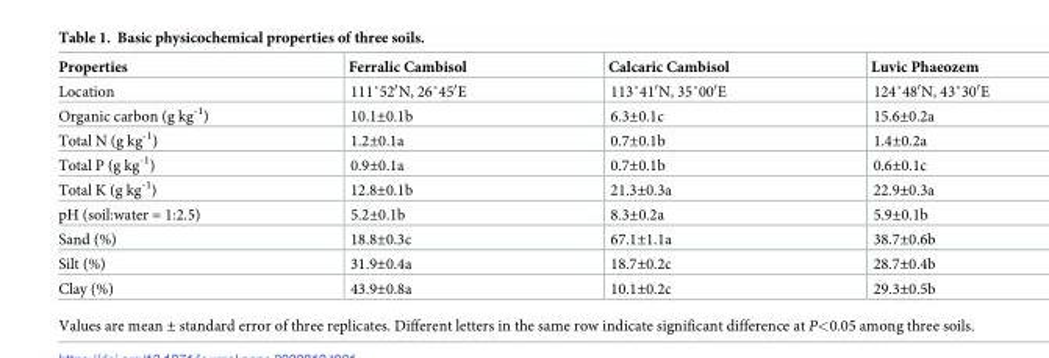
<table><thead><tr><td>Properties</td><td>Ferralic Cambisol</td><td>Calcaric Cambisol</td><td>Luvic Phaeozem</td></tr></thead><tbody><tr><td>Location</td><td>111˚52′N, 26˚45′E</td><td>113˚41′N, 35˚00′E</td><td>124˚48′N, 43˚30′E</td></tr><tr><td>Organic carbon (g kg<sup>-1</sup>)</td><td>10.1±0.1b</td><td>6.3±0.1c</td><td>15.6±0.2a</td></tr><tr><td>Total N (g kg<sup>-1</sup>)</td><td>1.2±0.1a</td><td>0.7±0.1b</td><td>1.4±0.2a</td></tr><tr><td>Total P (g kg<sup>-1</sup>)</td><td>0.9±0.1a</td><td>0.7±0.1b</td><td>0.6±0.1c</td></tr><tr><td>Total K (g kg<sup>-1</sup>)</td><td>12.8±0.1b</td><td>21.3±0.3a</td><td>22.9±0.3a</td></tr><tr><td>pH (soil:water = 1:2.5)</td><td>5.2±0.1b</td><td>8.3±0.2a</td><td>5.9±0.1b</td></tr><tr><td>Sand (%)</td><td>18.8±0.3c</td><td>67.1±1.1a</td><td>38.7±0.6b</td></tr><tr><td>Silt (%)</td><td>31.9±0.4a</td><td>18.7±0.2c</td><td>28.7±0.4b</td></tr><tr><td>Clay (%)</td><td>43.9±0.8a</td><td>10.1±0.2c</td><td>29.3±0.5b</td></tr></tbody></table>